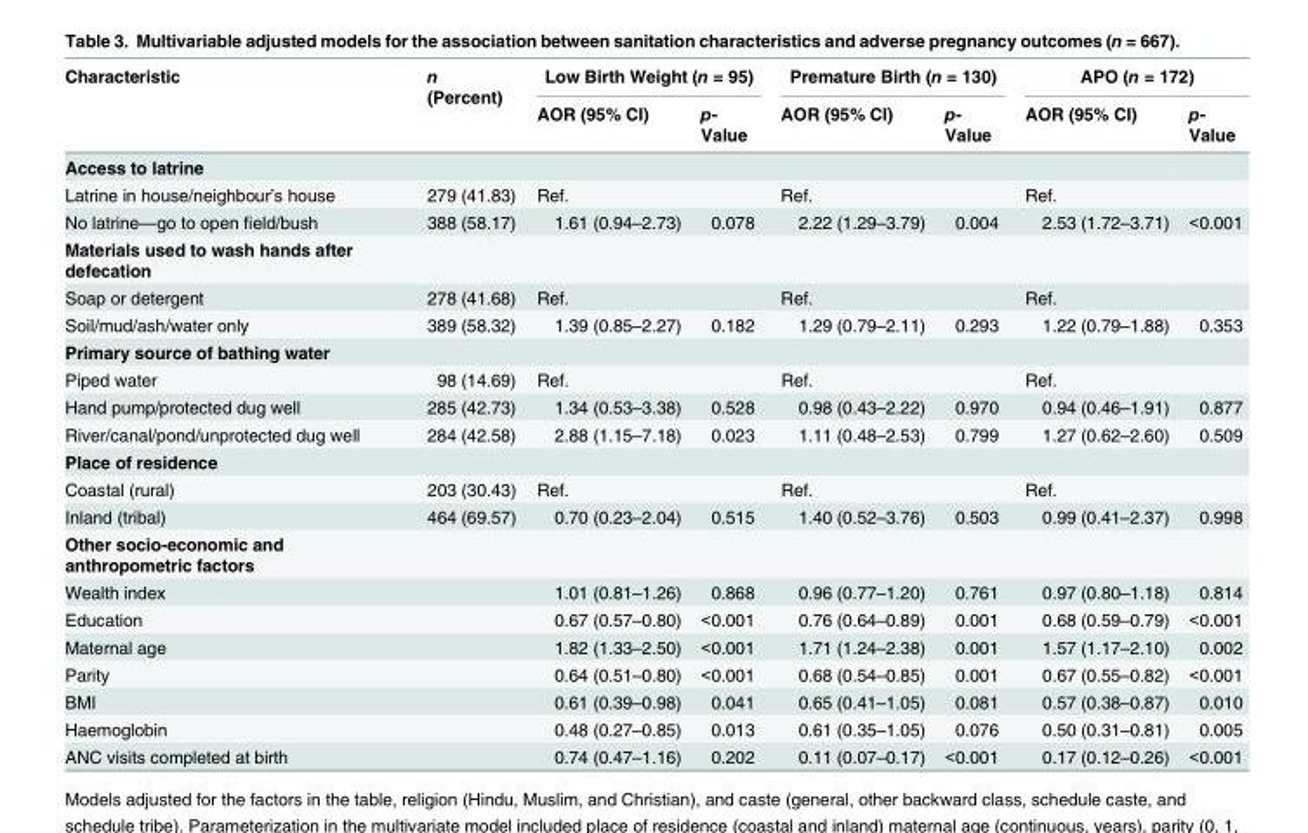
<table><thead><tr><td rowspan="2">Characteristic</td><td rowspan="2">n (Percent)</td><td colspan="2">Low Birth Weight (n = 95)</td><td colspan="2">Premature Birth (n = 130)</td><td colspan="2">APO (n = 172)</td></tr><tr><td>AOR (95% CI)</td><td>p- Value</td><td>AOR (95% CI)</td><td>p- Value</td><td>AOR (95% CI)</td><td>p- Value</td></tr></thead><tbody><tr><td colspan="8">Access to latrine</td></tr><tr><td>Latrine in house/neighbour’s house</td><td>279 (41.83)</td><td>Ref.</td><td></td><td>Ref.</td><td></td><td>Ref.</td><td></td></tr><tr><td>No latrine—go to open field/bush</td><td>388 (58.17)</td><td>1.61 (0.94–2.73)</td><td>0.078</td><td>2.22 (1.29–3.79)</td><td>0.004</td><td>2.53 (1.72–3.71)</td><td>&lt;0.001</td></tr><tr><td colspan="8">Materials used to wash hands after defecation</td></tr><tr><td>Soap or detergent</td><td>278 (41.68)</td><td>Ref.</td><td></td><td>Ref.</td><td></td><td>Ref.</td><td></td></tr><tr><td>Soil/mud/ash/water only</td><td>389 (58.32)</td><td>1.39 (0.85–2.27)</td><td>0.182</td><td>1.29 (0.79–2.11)</td><td>0.293</td><td>1.22 (0.79–1.88)</td><td>0.353</td></tr><tr><td colspan="8">Primary source of bathing water</td></tr><tr><td>Piped water</td><td>98 (14.69)</td><td>Ref.</td><td></td><td>Ref.</td><td></td><td>Ref.</td><td></td></tr><tr><td>Hand pump/protected dug well</td><td>285 (42.73)</td><td>1.34 (0.53–3.38)</td><td>0.528</td><td>0.98 (0.43–2.22)</td><td>0.970</td><td>0.94 (0.46–1.91)</td><td>0.877</td></tr><tr><td>River/canal/pond/unprotected dug well</td><td>284 (42.58)</td><td>2.88 (1.15–7.18)</td><td>0.023</td><td>1.11 (0.48–2.53)</td><td>0.799</td><td>1.27 (0.62–2.60)</td><td>0.509</td></tr><tr><td colspan="8">Place of residence</td></tr><tr><td>Coastal (rural)</td><td>203 (30.43)</td><td>Ref.</td><td></td><td>Ref.</td><td></td><td>Ref.</td><td></td></tr><tr><td>Inland (tribal)</td><td>464 (69.57)</td><td>0.70 (0.23–2.04)</td><td>0.515</td><td>1.40 (0.52–3.76)</td><td>0.503</td><td>0.99 (0.41–2.37)</td><td>0.998</td></tr><tr><td colspan="8">Other socio-economic and anthropometric factors</td></tr><tr><td>Wealth index</td><td></td><td>1.01 (0.81–1.26)</td><td>0.868</td><td>0.96 (0.77–1.20)</td><td>0.761</td><td>0.97 (0.80–1.18)</td><td>0.814</td></tr><tr><td>Education</td><td></td><td>0.67 (0.57–0.80)</td><td>&lt;0.001</td><td>0.76 (0.64–0.89)</td><td>0.001</td><td>0.68 (0.59–0.79)</td><td>&lt;0.001</td></tr><tr><td>Maternal age</td><td></td><td>1.82 (1.33–2.50)</td><td>&lt;0.001</td><td>1.71 (1.24–2.38)</td><td>0.001</td><td>1.57 (1.17–2.10)</td><td>0.002</td></tr><tr><td>Parity</td><td></td><td>0.64 (0.51–0.80)</td><td>&lt;0.001</td><td>0.68 (0.54–0.85)</td><td>0.001</td><td>0.67 (0.55–0.82)</td><td>&lt;0.001</td></tr><tr><td>BMI</td><td></td><td>0.61 (0.39–0.98)</td><td>0.041</td><td>0.65 (0.41–1.05)</td><td>0.081</td><td>0.57 (0.38–0.87)</td><td>0.010</td></tr><tr><td>Haemoglobin</td><td></td><td>0.48 (0.27–0.85)</td><td>0.013</td><td>0.61 (0.35–1.05)</td><td>0.076</td><td>0.50 (0.31–0.81)</td><td>0.005</td></tr><tr><td>ANC visits completed at birth</td><td></td><td>0.74 (0.47–1.16)</td><td>0.202</td><td>0.11 (0.07–0.17)</td><td>&lt;0.001</td><td>0.17 (0.12–0.26)</td><td>&lt;0.001</td></tr></tbody></table>